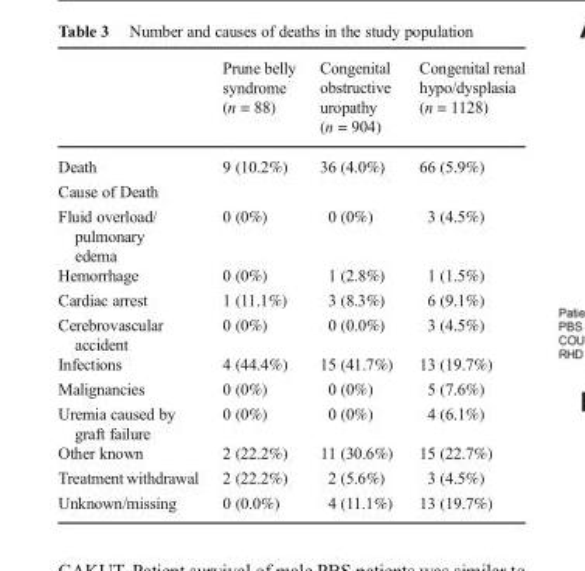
<table><thead><tr><td></td><td>Prune belly syndrome (n = 88)</td><td>Congenital obstructive uropathy (n = 904)</td><td>Congenital renal hypo/dysplasia (n = 1128)</td></tr></thead><tbody><tr><td>Death</td><td>9 (10.2%)</td><td>36 (4.0%)</td><td>66 (5.9%)</td></tr><tr><td colspan="4">Cause of Death</td></tr><tr><td>Fluid overload/ pulmonary edema</td><td>0 (0%)</td><td>0 (0%)</td><td>3 (4.5%)</td></tr><tr><td>Hemorrhage</td><td>0 (0%)</td><td>1 (2.8%)</td><td>1 (1.5%)</td></tr><tr><td>Cardiac arrest</td><td>1 (11.1%)</td><td>3 (8.3%)</td><td>6 (9.1%)</td></tr><tr><td>Cerebrovascular accident</td><td>0 (0%)</td><td>0 (0.0%)</td><td>3 (4.5%)</td></tr><tr><td>Infections</td><td>4 (44.4%)</td><td>15 (41.7%)</td><td>13 (19.7%)</td></tr><tr><td>Malignancies</td><td>0 (0%)</td><td>0 (0%)</td><td>5 (7.6%)</td></tr><tr><td>Uremia caused by graft failure</td><td>0 (0%)</td><td>0 (0%)</td><td>4 (6.1%)</td></tr><tr><td>Other known</td><td>2 (22.2%)</td><td>11 (30.6%)</td><td>15 (22.7%)</td></tr><tr><td>Treatment withdrawal</td><td>2 (22.2%)</td><td>2 (5.6%)</td><td>3 (4.5%)</td></tr><tr><td>Unknown/missing</td><td>0 (0.0%)</td><td>4 (11.1%)</td><td>13 (19.7%)</td></tr></tbody></table>